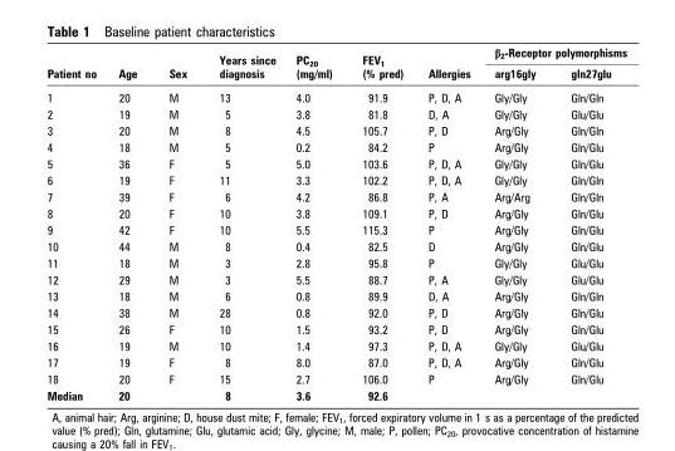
<table><thead><tr><td rowspan="2">Patient no</td><td rowspan="2">Age</td><td rowspan="2">Sex</td><td rowspan="2">Years since diagnosis</td><td rowspan="2">PC<sub>20</sub> (mg/ml)</td><td rowspan="2">FEV<sub>1</sub> (% pred)</td><td rowspan="2">Allergies</td><td colspan="2">β<sub>2</sub>-Receptor polymorphisms</td></tr><tr><td>arg16gly</td><td>gln27glu</td></tr></thead><tbody><tr><td>1</td><td>20</td><td>M</td><td>13</td><td>4.0</td><td>91.9</td><td>P, D, A</td><td>Gly/Gly</td><td>Gln/Gln</td></tr><tr><td>2</td><td>19</td><td>M</td><td>5</td><td>3.8</td><td>81.8</td><td>D, A</td><td>Gly/Gly</td><td>Glu/Glu</td></tr><tr><td>3</td><td>20</td><td>M</td><td>8</td><td>4.5</td><td>105.7</td><td>P, D</td><td>Arg/Gly</td><td>Gln/Gln</td></tr><tr><td>4</td><td>18</td><td>M</td><td>5</td><td>0.2</td><td>84.2</td><td>P</td><td>Arg/Gly</td><td>Gln/Glu</td></tr><tr><td>5</td><td>36</td><td>F</td><td>5</td><td>5.0</td><td>103.6</td><td>P, D, A</td><td>Gly/Gly</td><td>Gln/Glu</td></tr><tr><td>6</td><td>19</td><td>F</td><td>11</td><td>3.3</td><td>102.2</td><td>P, D, A</td><td>Gly/Gly</td><td>Gln/Gln</td></tr><tr><td>7</td><td>39</td><td>F</td><td>6</td><td>4.2</td><td>86.8</td><td>P, A</td><td>Arg/Arg</td><td>Gln/Gln</td></tr><tr><td>8</td><td>20</td><td>F</td><td>10</td><td>3.8</td><td>109.1</td><td>P, D</td><td>Arg/Gly</td><td>Gln/Glu</td></tr><tr><td>9</td><td>42</td><td>F</td><td>10</td><td>5.5</td><td>115.3</td><td>P</td><td>Arg/Gly</td><td>Gln/Glu</td></tr><tr><td>10</td><td>44</td><td>M</td><td>8</td><td>0.4</td><td>82.5</td><td>D</td><td>Arg/Gly</td><td>Gln/Glu</td></tr><tr><td>11</td><td>18</td><td>M</td><td>3</td><td>2.8</td><td>95.8</td><td>P</td><td>Gly/Gly</td><td>Glu/Glu</td></tr><tr><td>12</td><td>29</td><td>M</td><td>3</td><td>5.5</td><td>88.7</td><td>P, A</td><td>Gly/Gly</td><td>Glu/Glu</td></tr><tr><td>13</td><td>18</td><td>M</td><td>6</td><td>0.8</td><td>89.9</td><td>D, A</td><td>Arg/Gly</td><td>Gln/Gln</td></tr><tr><td>14</td><td>38</td><td>M</td><td>28</td><td>0.8</td><td>92.0</td><td>P, D</td><td>Arg/Gly</td><td>Gln/Glu</td></tr><tr><td>15</td><td>26</td><td>F</td><td>10</td><td>1.5</td><td>93.2</td><td>P, D</td><td>Arg/Gly</td><td>Gln/Glu</td></tr><tr><td>16</td><td>19</td><td>M</td><td>10</td><td>1.4</td><td>97.3</td><td>P, D, A</td><td>Gly/Gly</td><td>Glu/Glu</td></tr><tr><td>17</td><td>19</td><td>F</td><td>8</td><td>8.0</td><td>87.0</td><td>P, D, A</td><td>Arg/Gly</td><td>Gln/Glu</td></tr><tr><td>18</td><td>20</td><td>F</td><td>15</td><td>2.7</td><td>106.0</td><td>P</td><td>Arg/Gly</td><td>Gln/Glu</td></tr><tr><td>Median</td><td>20</td><td></td><td>8</td><td>3.6</td><td>92.6</td><td></td><td></td><td></td></tr></tbody></table>